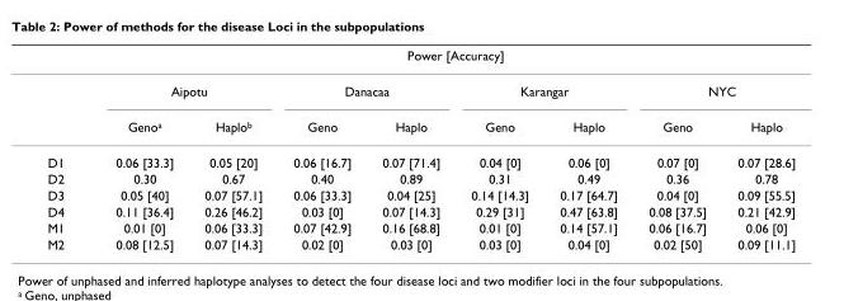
<table><thead><tr><td rowspan="3"></td><td colspan="8">Power [Accuracy]</td></tr><tr><td colspan="2">Aipotu</td><td colspan="2">Danacaa</td><td colspan="2">Karangar</td><td colspan="2">NYC</td></tr><tr><td>Genoa</td><td>Haplob</td><td>Geno</td><td>Haplo</td><td>Geno</td><td>Haplo</td><td>Geno</td><td>Haplo</td></tr></thead><tbody><tr><td>D1</td><td>0.06 [33.3]</td><td>0.05 [20]</td><td>0.06 [16.7]</td><td>0.07 [71.4]</td><td>0.04 [0]</td><td>0.06 [0]</td><td>0.07 [0]</td><td>0.07 [28.6]</td></tr><tr><td>D2</td><td>0.30</td><td>0.67</td><td>0.40</td><td>0.89</td><td>0.31</td><td>0.49</td><td>0.36</td><td>0.78</td></tr><tr><td>D3</td><td>0.05 [40]</td><td>0.07 [57.1]</td><td>0.06 [33.3]</td><td>0.04 [25]</td><td>0.14 [14.3]</td><td>0.17 [64.7]</td><td>0.04 [0]</td><td>0.09 [55.5]</td></tr><tr><td>D4</td><td>0.11 [36.4]</td><td>0.26 [46.2]</td><td>0.03 [0]</td><td>0.07 [14.3]</td><td>0.29 [31]</td><td>0.47 [63.8]</td><td>0.08 [37.5]</td><td>0.21 [42.9]</td></tr><tr><td>M1</td><td>0.01 [0]</td><td>0.06 [33.3]</td><td>0.07 [42.9]</td><td>0.16 [68.8]</td><td>0.01 [0]</td><td>0.14 [57.1]</td><td>0.06 [16.7]</td><td>0.06 [0]</td></tr><tr><td>M2</td><td>0.08 [12.5]</td><td>0.07 [14.3]</td><td>0.02 [0]</td><td>0.03 [0]</td><td>0.03 [0]</td><td>0.04 [0]</td><td>0.02 [50]</td><td>0.09 [11.1]</td></tr></tbody></table>